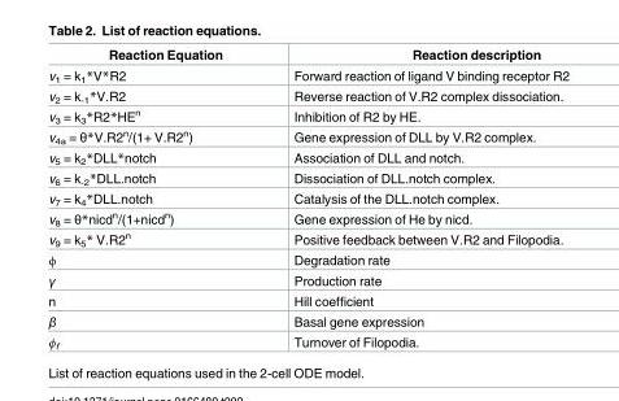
<table><thead><tr><td>Reaction Equation</td><td>Reaction description</td></tr></thead><tbody><tr><td>v<sub>1</sub> = k<sub>1</sub>*V*R2</td><td>Forward reaction of ligand V binding receptor R2</td></tr><tr><td>v<sub>2</sub> = k<sub>-1</sub>*V.R2</td><td>Reverse reaction of V.R2 complex dissociation.</td></tr><tr><td>v<sub>3</sub> = k<sub>3</sub>*R2*HE<sup>n</sup></td><td>Inhibition of R2 by HE.</td></tr><tr><td>v<sub>4a</sub> = θ*V.R2<sup>n</sup>/(1+ V.R2<sup>n</sup>)</td><td>Gene expression of DLL by V.R2 complex.</td></tr><tr><td>v<sub>5</sub> = k<sub>2</sub>*DLL*notch</td><td>Association of DLL and notch.</td></tr><tr><td>v<sub>6</sub> = k<sub>-2</sub>*DLL.notch</td><td>Dissociation of DLL.notch complex.</td></tr><tr><td>v<sub>7</sub> = k<sub>4</sub>*DLL.notch</td><td>Catalysis of the DLL.notch complex.</td></tr><tr><td>v<sub>8</sub> = θ*nicd<sup>n</sup>/(1+nicd<sup>n</sup>)</td><td>Gene expression of He by nicd.</td></tr><tr><td>v<sub>9</sub> = k<sub>5</sub>* V.R2<sup>n</sup></td><td>Positive feedback between V.R2 and Filopodia.</td></tr><tr><td>ϕ</td><td>Degradation rate</td></tr><tr><td>γ</td><td>Production rate</td></tr><tr><td>n</td><td>Hill coefficient</td></tr><tr><td>β</td><td>Basal gene expression</td></tr><tr><td>ϕ<sub>f</sub></td><td>Turnover of Filopodia.</td></tr></tbody></table>